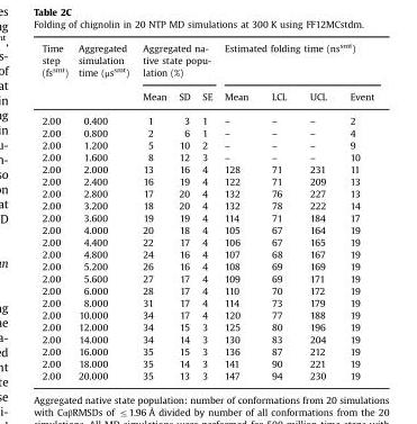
<table><thead><tr><td rowspan="2">Time step (fs<sup>smt</sup>)</td><td rowspan="2">Aggregated simulation time (μs<sup>smt</sup>)</td><td colspan="3">Aggregated na- tive state popu- lation (%)</td><td colspan="4">Estimated folding time (ns<sup>smt</sup>)</td></tr><tr><td>Mean</td><td>SD</td><td>SE</td><td>Mean</td><td>LCL</td><td>UCL</td><td>Event</td></tr></thead><tbody><tr><td>2.00</td><td>0.400</td><td>1</td><td>3</td><td>1</td><td>–</td><td>–</td><td>–</td><td>2</td></tr><tr><td>2.00</td><td>0.800</td><td>2</td><td>6</td><td>1</td><td>–</td><td>–</td><td>–</td><td>4</td></tr><tr><td>2.00</td><td>1.200</td><td>5</td><td>10</td><td>2</td><td>–</td><td>–</td><td>–</td><td>9</td></tr><tr><td>2.00</td><td>1.600</td><td>8</td><td>12</td><td>3</td><td>–</td><td>–</td><td>–</td><td>10</td></tr><tr><td>2.00</td><td>2.000</td><td>13</td><td>16</td><td>4</td><td>128</td><td>71</td><td>231</td><td>11</td></tr><tr><td>2.00</td><td>2.400</td><td>16</td><td>19</td><td>4</td><td>122</td><td>71</td><td>209</td><td>13</td></tr><tr><td>2.00</td><td>2.800</td><td>17</td><td>20</td><td>4</td><td>132</td><td>76</td><td>227</td><td>13</td></tr><tr><td>2.00</td><td>3.200</td><td>18</td><td>20</td><td>4</td><td>132</td><td>78</td><td>222</td><td>14</td></tr><tr><td>2.00</td><td>3.600</td><td>19</td><td>19</td><td>4</td><td>114</td><td>71</td><td>184</td><td>17</td></tr><tr><td>2.00</td><td>4.000</td><td>20</td><td>18</td><td>4</td><td>105</td><td>67</td><td>164</td><td>19</td></tr><tr><td>2.00</td><td>4.400</td><td>22</td><td>17</td><td>4</td><td>106</td><td>67</td><td>165</td><td>19</td></tr><tr><td>2.00</td><td>4.800</td><td>24</td><td>16</td><td>4</td><td>107</td><td>68</td><td>167</td><td>19</td></tr><tr><td>2.00</td><td>5.200</td><td>26</td><td>16</td><td>4</td><td>108</td><td>69</td><td>169</td><td>19</td></tr><tr><td>2.00</td><td>5.600</td><td>27</td><td>17</td><td>4</td><td>109</td><td>69</td><td>171</td><td>19</td></tr><tr><td>2.00</td><td>6.000</td><td>28</td><td>17</td><td>4</td><td>110</td><td>70</td><td>172</td><td>19</td></tr><tr><td>2.00</td><td>8.000</td><td>31</td><td>17</td><td>4</td><td>114</td><td>73</td><td>179</td><td>19</td></tr><tr><td>2.00</td><td>10.000</td><td>34</td><td>17</td><td>4</td><td>120</td><td>77</td><td>188</td><td>19</td></tr><tr><td>2.00</td><td>12.000</td><td>34</td><td>15</td><td>3</td><td>125</td><td>80</td><td>196</td><td>19</td></tr><tr><td>2.00</td><td>14.000</td><td>34</td><td>14</td><td>3</td><td>130</td><td>83</td><td>204</td><td>19</td></tr><tr><td>2.00</td><td>16.000</td><td>35</td><td>15</td><td>3</td><td>136</td><td>87</td><td>212</td><td>19</td></tr><tr><td>2.00</td><td>18.000</td><td>35</td><td>14</td><td>3</td><td>141</td><td>90</td><td>221</td><td>19</td></tr><tr><td>2.00</td><td>20.000</td><td>35</td><td>13</td><td>3</td><td>147</td><td>94</td><td>230</td><td>19</td></tr></tbody></table>